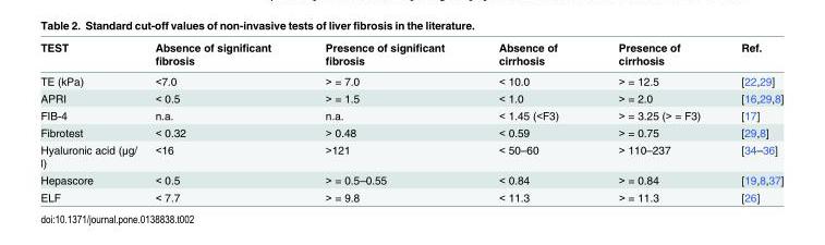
<table><thead><tr><td>TEST</td><td>Absence of significant fibrosis</td><td>Presence of significant fibrosis</td><td>Absence of cirrhosis</td><td>Presence of cirrhosis</td><td>Ref.</td></tr></thead><tbody><tr><td>TE (kPa)</td><td>&lt;7.0</td><td>&gt; = 7.0</td><td>&lt; 10.0</td><td>&gt; = 12.5</td><td>[22,29]</td></tr><tr><td>APRI</td><td>&lt; 0.5</td><td>&gt; = 1.5</td><td>&lt; 1.0</td><td>&gt; = 2.0</td><td>[16,29,8]</td></tr><tr><td>FIB-4</td><td>n.a.</td><td>n.a.</td><td>&lt; 1.45 (&lt;F3)</td><td>&gt; = 3.25 (&gt; = F3)</td><td>[17]</td></tr><tr><td>Fibrotest</td><td>&lt; 0.32</td><td>&gt; 0.48</td><td>&lt; 0.59</td><td>&gt; = 0.75</td><td>[29,8]</td></tr><tr><td>Hyaluronic acid (μg/ l)</td><td>&lt;16</td><td>&gt;121</td><td>&lt; 50–60</td><td>&gt; 110–237</td><td>[34–36]</td></tr><tr><td>Hepascore</td><td>&lt; 0.5</td><td>&gt; = 0.5–0.55</td><td>&lt; 0.84</td><td>&gt; = 0.84</td><td>[19,8,37]</td></tr><tr><td>ELF</td><td>&lt; 7.7</td><td>&gt; = 9.8</td><td>&lt; 11.3</td><td>&gt; = 11.3</td><td>[26]</td></tr></tbody></table>